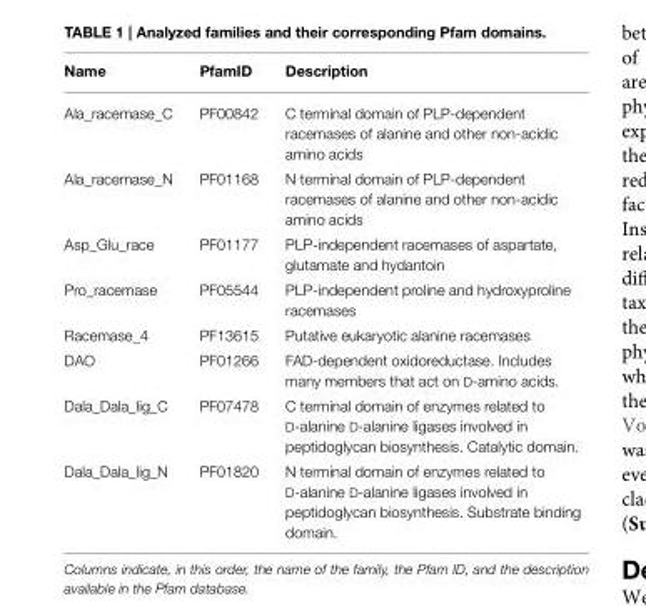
<table><thead><tr><td>Name</td><td>PfamID</td><td>Description</td></tr></thead><tbody><tr><td>Ala_racemase_C</td><td>PF00842</td><td>C terminal domain of PLP-dependent racemases of alanine and other non-acidic amino acids</td></tr><tr><td>Ala_racemase_N</td><td>PF01168</td><td>N terminal domain of PLP-dependent racemases of alanine and other non-acidic amino acids</td></tr><tr><td>Asp_Glu_race</td><td>PF01177</td><td>PLP-independent racemases of aspartate, glutamate and hydantoin</td></tr><tr><td>Pro_racemase</td><td>PF05544</td><td>PLP-independent proline and hydroxyproline racemases</td></tr><tr><td>Racemase_4</td><td>PF13615</td><td>Putative eukaryotic alanine racemases</td></tr><tr><td>DAO</td><td>PF01266</td><td>FAD-dependent oxidoreductase. Includes many members that act on D-amino acids.</td></tr><tr><td>Dala_Dala_lig_C</td><td>PF07478</td><td>C terminal domain of enzymes related to D-alanine D-alanine ligases involved in peptidoglycan biosynthesis. Catalytic domain.</td></tr><tr><td>Dala_Dala_lig_N</td><td>PF01820</td><td>N terminal domain of enzymes related to D-alanine D-alanine ligases involved in peptidoglycan biosynthesis. Substrate binding domain.</td></tr></tbody></table>